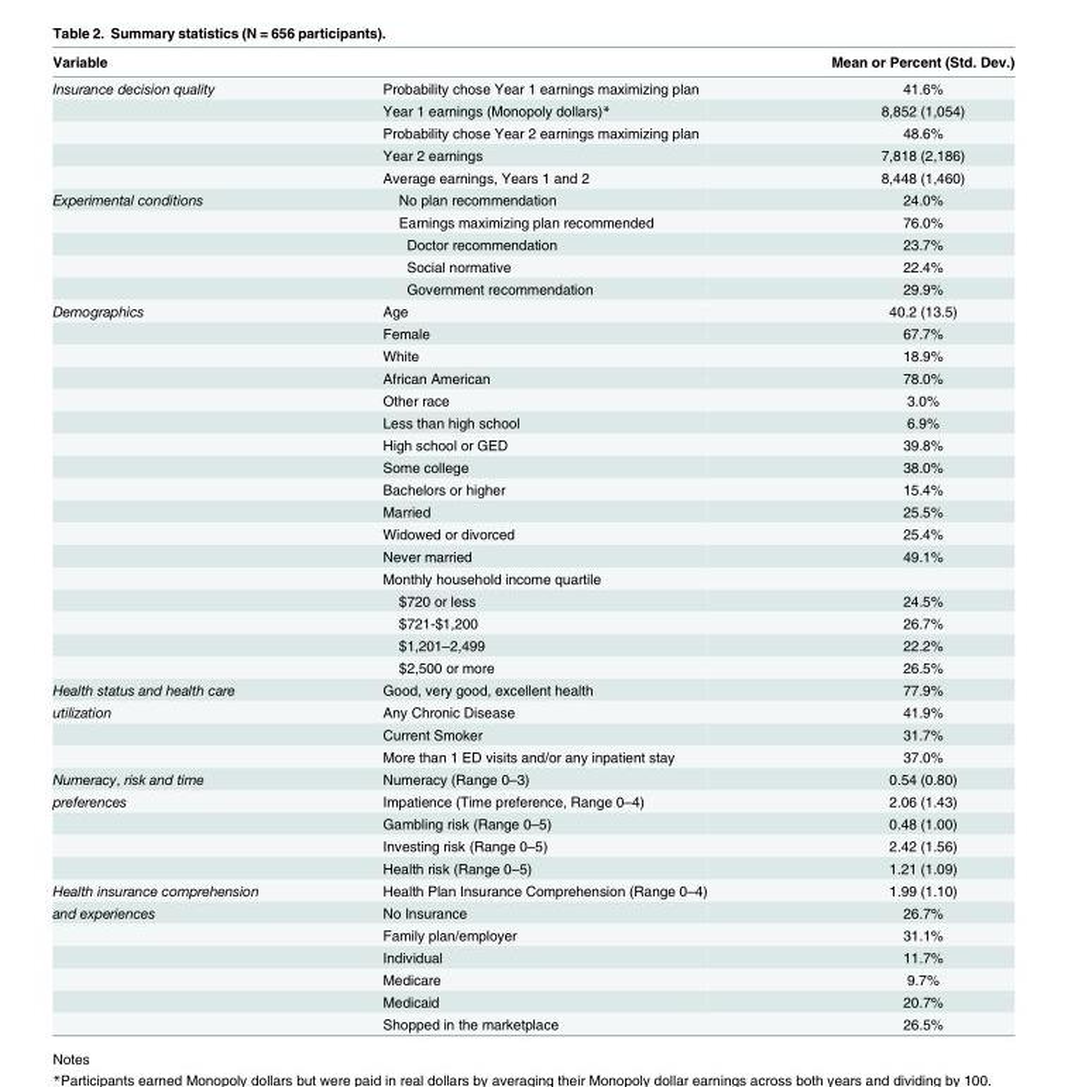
<table><thead><tr><td>Variable</td><td></td><td>Mean or Percent (Std. Dev.)</td></tr></thead><tbody><tr><td rowspan="5">Insurance decision quality</td><td>Probability chose Year 1 earnings maximizing plan</td><td>41.6%</td></tr><tr><td>Year 1 earnings (Monopoly dollars)*</td><td>8,852 (1,054)</td></tr><tr><td>Probability chose Year 2 earnings maximizing plan</td><td>48.6%</td></tr><tr><td>Year 2 earnings</td><td>7,818 (2,186)</td></tr><tr><td>Average earnings, Years 1 and 2</td><td>8,448 (1,460)</td></tr><tr><td rowspan="5">Experimental conditions</td><td>No plan recommendation</td><td>24.0%</td></tr><tr><td>Earnings maximizing plan recommended</td><td>76.0%</td></tr><tr><td>Doctor recommendation</td><td>23.7%</td></tr><tr><td>Social normative</td><td>22.4%</td></tr><tr><td>Government recommendation</td><td>29.9%</td></tr><tr><td rowspan="17">Demographics</td><td>Age</td><td>40.2 (13.5)</td></tr><tr><td>Female</td><td>67.7%</td></tr><tr><td>White</td><td>18.9%</td></tr><tr><td>African American</td><td>78.0%</td></tr><tr><td>Other race</td><td>3.0%</td></tr><tr><td>Less than high school</td><td>6.9%</td></tr><tr><td>High school or GED</td><td>39.8%</td></tr><tr><td>Some college</td><td>38.0%</td></tr><tr><td>Bachelors or higher</td><td>15.4%</td></tr><tr><td>Married</td><td>25.5%</td></tr><tr><td>Widowed or divorced</td><td>25.4%</td></tr><tr><td>Never married</td><td>49.1%</td></tr><tr><td>Monthly household income quartile</td><td></td></tr><tr><td>$720 or less</td><td>24.5%</td></tr><tr><td>$721-$1,200</td><td>26.7%</td></tr><tr><td>$1,201–2,499</td><td>22.2%</td></tr><tr><td>$2,500 or more</td><td>26.5%</td></tr><tr><td>Health status and health care</td><td>Good, very good, excellent health</td><td>77.9%</td></tr><tr><td rowspan="3">utilization</td><td>Any Chronic Disease</td><td>41.9%</td></tr><tr><td>Current Smoker</td><td>31.7%</td></tr><tr><td>More than 1 ED visits and/or any inpatient stay</td><td>37.0%</td></tr><tr><td>Numeracy, risk and time</td><td>Numeracy (Range 0–3)</td><td>0.54 (0.80)</td></tr><tr><td rowspan="4">preferences</td><td>Impatience (Time preference, Range 0–4)</td><td>2.06 (1.43)</td></tr><tr><td>Gambling risk (Range 0–5)</td><td>0.48 (1.00)</td></tr><tr><td>Investing risk (Range 0–5)</td><td>2.42 (1.56)</td></tr><tr><td>Health risk (Range 0–5)</td><td>1.21 (1.09)</td></tr><tr><td>Health insurance comprehension</td><td>Health Plan Insurance Comprehension (Range 0–4)</td><td>1.99 (1.10)</td></tr><tr><td rowspan="6">and experiences</td><td>No Insurance</td><td>26.7%</td></tr><tr><td>Family plan/employer</td><td>31.1%</td></tr><tr><td>Individual</td><td>11.7%</td></tr><tr><td>Medicare</td><td>9.7%</td></tr><tr><td>Medicaid</td><td>20.7%</td></tr><tr><td>Shopped in the marketplace</td><td>26.5%</td></tr></tbody></table>